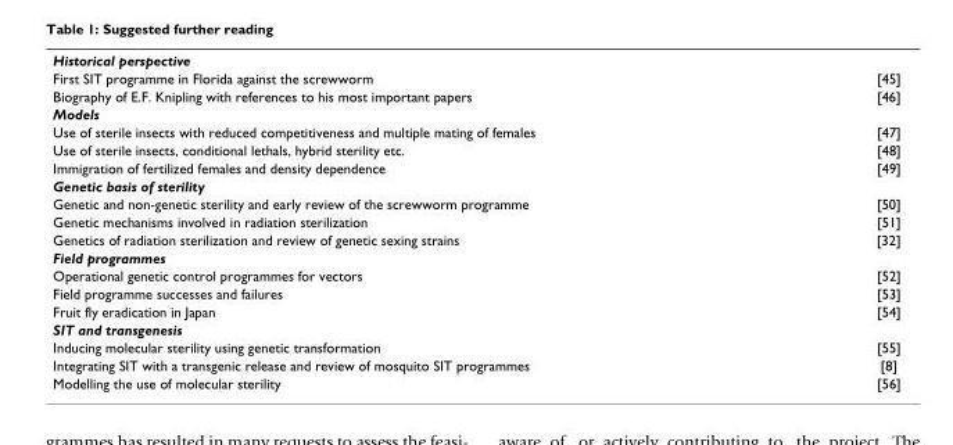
<table><tbody><tr><td colspan="2">Historical perspective</td></tr><tr><td>First SIT programme in Florida against the screwworm</td><td>[45]</td></tr><tr><td>Biography of E.F. Knipling with references to his most important papers</td><td>[46]</td></tr><tr><td colspan="2">Models</td></tr><tr><td>Use of sterile insects with reduced competitiveness and multiple mating of females</td><td>[47]</td></tr><tr><td>Use of sterile insects, conditional lethals, hybrid sterility etc.</td><td>[48]</td></tr><tr><td>Immigration of fertilized females and density dependence</td><td>[49]</td></tr><tr><td colspan="2">Genetic basis of sterility</td></tr><tr><td>Genetic and non-genetic sterility and early review of the screwworm programme</td><td>[50]</td></tr><tr><td>Genetic mechanisms involved in radiation sterilization</td><td>[51]</td></tr><tr><td>Genetics of radiation sterilization and review of genetic sexing strains</td><td>[32]</td></tr><tr><td colspan="2">Field programmes</td></tr><tr><td>Operational genetic control programmes for vectors</td><td>[52]</td></tr><tr><td>Field programme successes and failures</td><td>[53]</td></tr><tr><td>Fruit fly eradication in Japan</td><td>[54]</td></tr><tr><td colspan="2">SIT and transgenesis</td></tr><tr><td>Inducing molecular sterility using genetic transformation</td><td>[55]</td></tr><tr><td>Integrating SIT with a transgenic release and review of mosquito SIT programmes</td><td>[8]</td></tr><tr><td>Modelling the use of molecular sterility</td><td>[56]</td></tr></tbody></table>